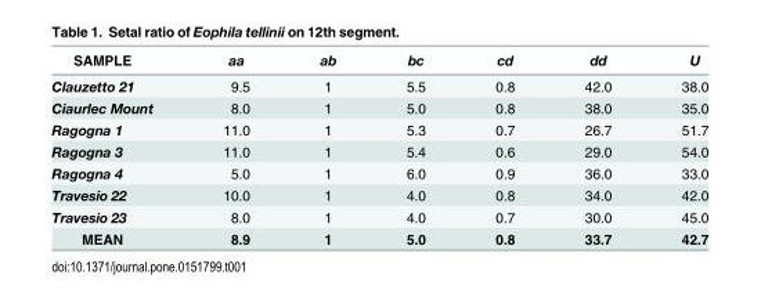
<table><thead><tr><td>SAMPLE</td><td>aa</td><td>ab</td><td>bc</td><td>cd</td><td>dd</td><td>U</td></tr></thead><tbody><tr><td>Clauzetto 21</td><td>9.5</td><td>1</td><td>5.5</td><td>0.8</td><td>42.0</td><td>38.0</td></tr><tr><td>Ciaurlec Mount</td><td>8.0</td><td>1</td><td>5.0</td><td>0.8</td><td>38.0</td><td>35.0</td></tr><tr><td>Ragogna 1</td><td>11.0</td><td>1</td><td>5.3</td><td>0.7</td><td>26.7</td><td>51.7</td></tr><tr><td>Ragogna 3</td><td>11.0</td><td>1</td><td>5.4</td><td>0.6</td><td>29.0</td><td>54.0</td></tr><tr><td>Ragogna 4</td><td>5.0</td><td>1</td><td>6.0</td><td>0.9</td><td>36.0</td><td>33.0</td></tr><tr><td>Travesio 22</td><td>10.0</td><td>1</td><td>4.0</td><td>0.8</td><td>34.0</td><td>42.0</td></tr><tr><td>Travesio 23</td><td>8.0</td><td>1</td><td>4.0</td><td>0.7</td><td>30.0</td><td>45.0</td></tr><tr><td>MEAN</td><td>8.9</td><td>1</td><td>5.0</td><td>0.8</td><td>33.7</td><td>42.7</td></tr></tbody></table>